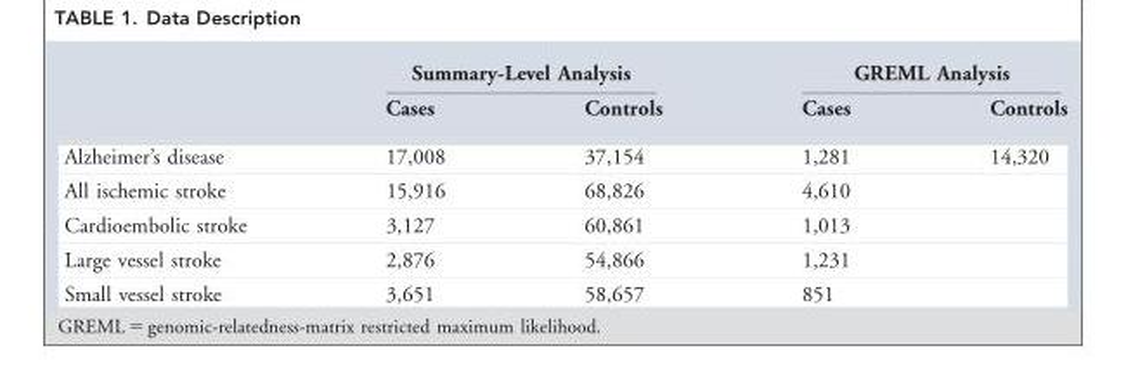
<table><thead><tr><td rowspan="2"></td><td colspan="2">Summary-Level Analysis</td><td colspan="2">GREML Analysis</td></tr><tr><td>Cases</td><td>Controls</td><td>Cases</td><td>Controls</td></tr></thead><tbody><tr><td>Alzheimer’s disease</td><td>17,008</td><td>37,154</td><td>1,281</td><td>14,320</td></tr><tr><td>All ischemic stroke</td><td>15,916</td><td>68,826</td><td>4,610</td><td></td></tr><tr><td>Cardioembolic stroke</td><td>3,127</td><td>60,861</td><td>1,013</td><td></td></tr><tr><td>Large vessel stroke</td><td>2,876</td><td>54,866</td><td>1,231</td><td></td></tr><tr><td>Small vessel stroke</td><td>3,651</td><td>58,657</td><td>851</td><td></td></tr></tbody></table>